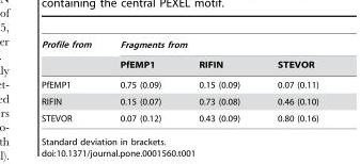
<table><thead><tr><td rowspan="2">Profile from</td><td colspan="3">Fragments from</td></tr><tr><td>PfEMP1</td><td>RIFIN</td><td>STEVOR</td></tr></thead><tbody><tr><td>PfEMP1</td><td>0.75 (0.09)</td><td>0.15 (0.09)</td><td>0.07 (0.11)</td></tr><tr><td>RIFIN</td><td>0.15 (0.07)</td><td>0.73 (0.08)</td><td>0.46 (0.10)</td></tr><tr><td>STEVOR</td><td>0.07 (0.12)</td><td>0.43 (0.09)</td><td>0.80 (0.16)</td></tr></tbody></table>